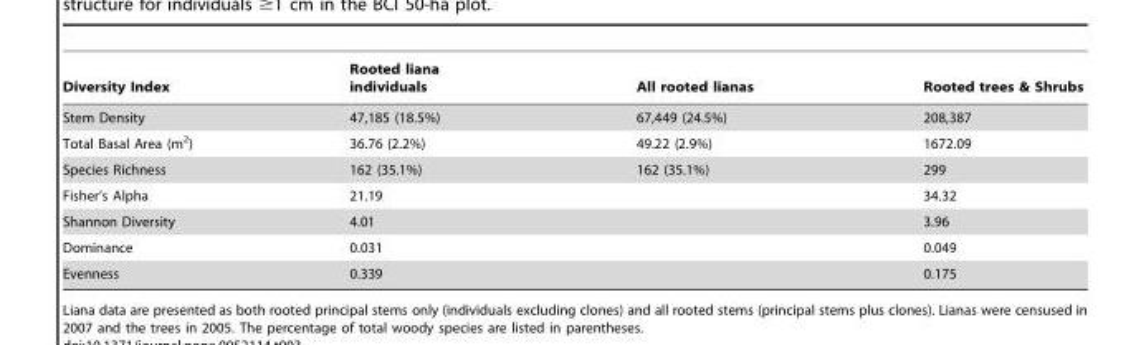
<table><thead><tr><td>Diversity Index</td><td>Rooted liana individuals</td><td>All rooted lianas</td><td>Rooted trees &amp; Shrubs</td></tr></thead><tbody><tr><td>Stem Density</td><td>47,185 (18.5%)</td><td>67,449 (24.5%)</td><td>208,387</td></tr><tr><td>Total Basal Area (m<sup>2</sup>)</td><td>36.76 (2.2%)</td><td>49.22 (2.9%)</td><td>1672.09</td></tr><tr><td>Species Richness</td><td>162 (35.1%)</td><td>162 (35.1%)</td><td>299</td></tr><tr><td>Fisher’s Alpha</td><td>21.19</td><td></td><td>34.32</td></tr><tr><td>Shannon Diversity</td><td>4.01</td><td></td><td>3.96</td></tr><tr><td>Dominance</td><td>0.031</td><td></td><td>0.049</td></tr><tr><td>Evenness</td><td>0.339</td><td></td><td>0.175</td></tr></tbody></table>